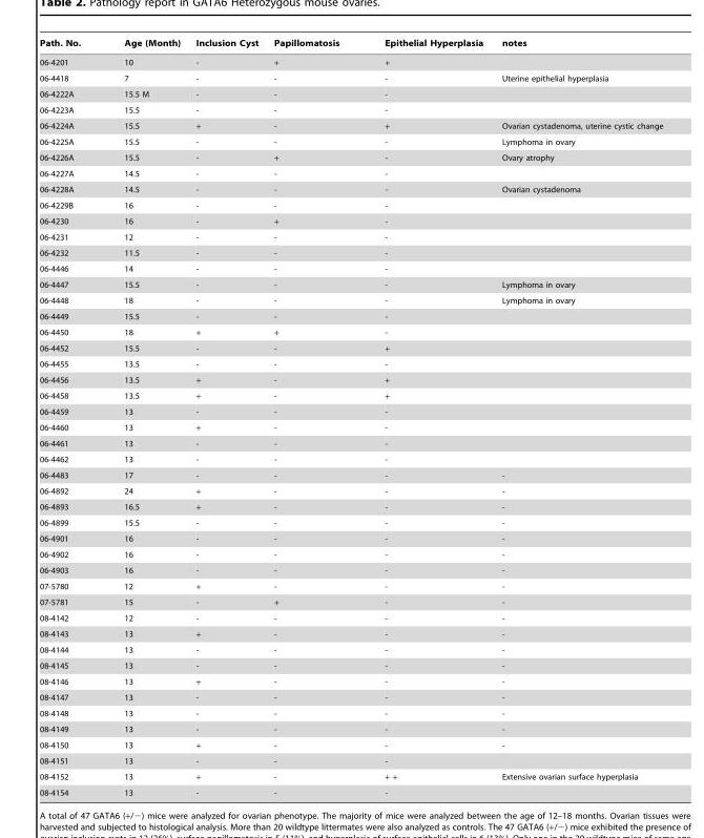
<table><thead><tr><td>Path. No.</td><td>Age (Month)</td><td>Inclusion Cyst</td><td>Papillomatosis</td><td>Epithelial Hyperplasia</td><td>notes</td></tr></thead><tbody><tr><td>06-4201</td><td>10</td><td>-</td><td>+</td><td>+</td><td></td></tr><tr><td>06-4418</td><td>7</td><td>-</td><td>-</td><td>-</td><td>Uterine epithelial hyperplasia</td></tr><tr><td>06-4222A</td><td>15.5 M</td><td>-</td><td>-</td><td>-</td><td></td></tr><tr><td>06-4223A</td><td>15.5</td><td>-</td><td>-</td><td>-</td><td></td></tr><tr><td>06-4224A</td><td>15.5</td><td>+</td><td>-</td><td>+</td><td>Ovarian cystadenoma, uterine cystic change</td></tr><tr><td>06-4225A</td><td>15.5</td><td>-</td><td>-</td><td>-</td><td>Lymphoma in ovary</td></tr><tr><td>06-4226A</td><td>15.5</td><td>-</td><td>+</td><td>-</td><td>Ovary atrophy</td></tr><tr><td>06-4227A</td><td>14.5</td><td>-</td><td>-</td><td>-</td><td></td></tr><tr><td>06-4228A</td><td>14.5</td><td>-</td><td>-</td><td>-</td><td>Ovarian cystadenoma</td></tr><tr><td>06-4229B</td><td>16</td><td>-</td><td>-</td><td>-</td><td></td></tr><tr><td>06-4230</td><td>16</td><td>-</td><td>+</td><td>-</td><td></td></tr><tr><td>06-4231</td><td>12</td><td>-</td><td>-</td><td>-</td><td></td></tr><tr><td>06-4232</td><td>11.5</td><td>-</td><td>-</td><td>-</td><td></td></tr><tr><td>06-4446</td><td>14</td><td>-</td><td>-</td><td>-</td><td></td></tr><tr><td>06-4447</td><td>15.5</td><td>-</td><td>-</td><td>-</td><td>Lymphoma in ovary</td></tr><tr><td>06-4448</td><td>18</td><td>-</td><td>-</td><td>-</td><td>Lymphoma in ovary</td></tr><tr><td>06-4449</td><td>15.5</td><td>-</td><td>-</td><td>-</td><td></td></tr><tr><td>06-4450</td><td>18</td><td>+</td><td>+</td><td>-</td><td></td></tr><tr><td>06-4452</td><td>15.5</td><td>-</td><td>-</td><td>+</td><td></td></tr><tr><td>06-4455</td><td>13.5</td><td>-</td><td>-</td><td>-</td><td></td></tr><tr><td>06-4456</td><td>13.5</td><td>+</td><td>-</td><td>+</td><td></td></tr><tr><td>06-4458</td><td>13.5</td><td>+</td><td>-</td><td>+</td><td></td></tr><tr><td>06-4459</td><td>13</td><td>-</td><td>-</td><td>-</td><td></td></tr><tr><td>06-4460</td><td>13</td><td>+</td><td>-</td><td>-</td><td></td></tr><tr><td>06-4461</td><td>13</td><td>-</td><td>-</td><td>-</td><td></td></tr><tr><td>06-4462</td><td>13</td><td>-</td><td>-</td><td>-</td><td></td></tr><tr><td>06-4483</td><td>17</td><td>-</td><td>-</td><td>-</td><td>-</td></tr><tr><td>06-4892</td><td>24</td><td>+</td><td>-</td><td>-</td><td>-</td></tr><tr><td>06-4893</td><td>16.5</td><td>+</td><td>-</td><td>-</td><td>-</td></tr><tr><td>06-4899</td><td>15.5</td><td>-</td><td>-</td><td>-</td><td>-</td></tr><tr><td>06-4901</td><td>16</td><td>-</td><td>-</td><td>-</td><td>-</td></tr><tr><td>06-4902</td><td>16</td><td>-</td><td>-</td><td>-</td><td>-</td></tr><tr><td>06-4903</td><td>16</td><td>-</td><td>-</td><td>-</td><td>-</td></tr><tr><td>07-5780</td><td>12</td><td>+</td><td>-</td><td>-</td><td>-</td></tr><tr><td>07-5781</td><td>15</td><td>-</td><td>+</td><td>-</td><td>-</td></tr><tr><td>08-4142</td><td>12</td><td>-</td><td>-</td><td>-</td><td>-</td></tr><tr><td>08-4143</td><td>13</td><td>+</td><td>-</td><td>-</td><td>-</td></tr><tr><td>08-4144</td><td>13</td><td>-</td><td>-</td><td>-</td><td>-</td></tr><tr><td>08-4145</td><td>13</td><td>-</td><td>-</td><td>-</td><td>-</td></tr><tr><td>08-4146</td><td>13</td><td>+</td><td>-</td><td>-</td><td>-</td></tr><tr><td>08-4147</td><td>13</td><td>-</td><td>-</td><td>-</td><td>-</td></tr><tr><td>08-4148</td><td>13</td><td>-</td><td>-</td><td>-</td><td>-</td></tr><tr><td>08-4149</td><td>13</td><td>-</td><td>-</td><td>-</td><td>-</td></tr><tr><td>08-4150</td><td>13</td><td>+</td><td>-</td><td>-</td><td>-</td></tr><tr><td>08-4151</td><td>13</td><td>-</td><td>-</td><td>-</td><td></td></tr><tr><td>08-4152</td><td>13</td><td>+</td><td>-</td><td>+ +</td><td>Extensive ovarian surface hyperplasia</td></tr><tr><td>08-4154</td><td>13</td><td>-</td><td>-</td><td>-</td><td></td></tr></tbody></table>